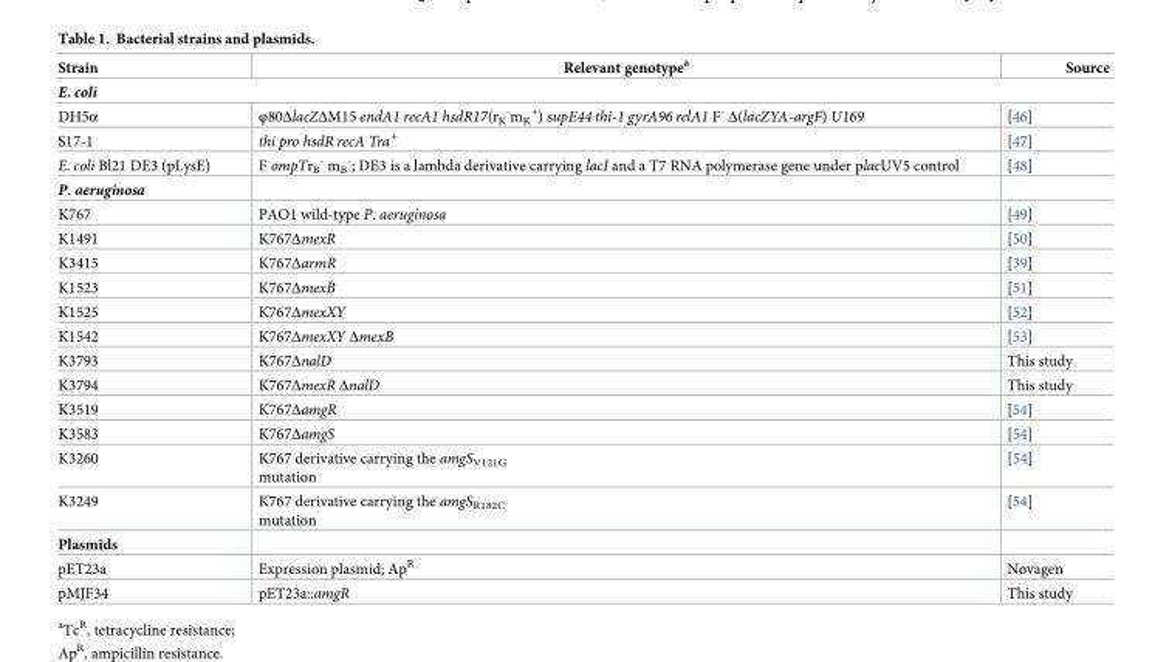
<table><thead><tr><td>Strain</td><td>Relevant genotype<sup>a</sup></td><td>Source</td></tr></thead><tbody><tr><td colspan="3">E. coli</td></tr><tr><td>DH5α</td><td>φ80ΔlacZΔM15 endA1 recA1 hsdR17(r<sub>K</sub> <sup>-</sup>m<sub>K</sub> <sup>+</sup>) supE44 thi-1 gyrA96 relA1 F<sup>-</sup> Δ(lacZYA-argF) U169</td><td>[46]</td></tr><tr><td>S17-1</td><td>thi pro hsdR recA Tra<sup>+</sup></td><td>[47]</td></tr><tr><td>E. coli Bl21 DE3 (pLysE)</td><td>F<sup>-</sup>ompTr<sub>B</sub> <sup>-</sup> m<sub>B</sub> <sup>-</sup>; DE3 is a lambda derivative carrying lacI and a T7 RNA polymerase gene under placUV5 control</td><td>[48]</td></tr><tr><td colspan="3">P. aeruginosa</td></tr><tr><td>K767</td><td>PAO1 wild-type P. aeruginosa</td><td>[49]</td></tr><tr><td>K1491</td><td>K767ΔmexR</td><td>[50]</td></tr><tr><td>K3415</td><td>K767ΔarmR</td><td>[39]</td></tr><tr><td>K1523</td><td>K767ΔmexB</td><td>[51]</td></tr><tr><td>K1525</td><td>K767ΔmexXY</td><td>[52]</td></tr><tr><td>K1542</td><td>K767ΔmexXY ΔmexB</td><td>[53]</td></tr><tr><td>K3793</td><td>K767ΔnalD</td><td>This study</td></tr><tr><td>K3794</td><td>K767ΔmexR ΔnalD</td><td>This study</td></tr><tr><td>K3519</td><td>K767ΔamgR</td><td>[54]</td></tr><tr><td>K3583</td><td>K767ΔamgS</td><td>[54]</td></tr><tr><td>K3260</td><td>K767 derivative carrying the amgS<sub>V121G</sub> mutation</td><td>[54]</td></tr><tr><td>K3249</td><td>K767 derivative carrying the amgS<sub>R182C</sub> mutation</td><td>[54]</td></tr><tr><td colspan="3">Plasmids</td></tr><tr><td>pET23a</td><td>Expression plasmid; Ap<sup>R</sup></td><td>Novagen</td></tr><tr><td>pMJF34</td><td>pET23a::amgR</td><td>This study</td></tr></tbody></table>